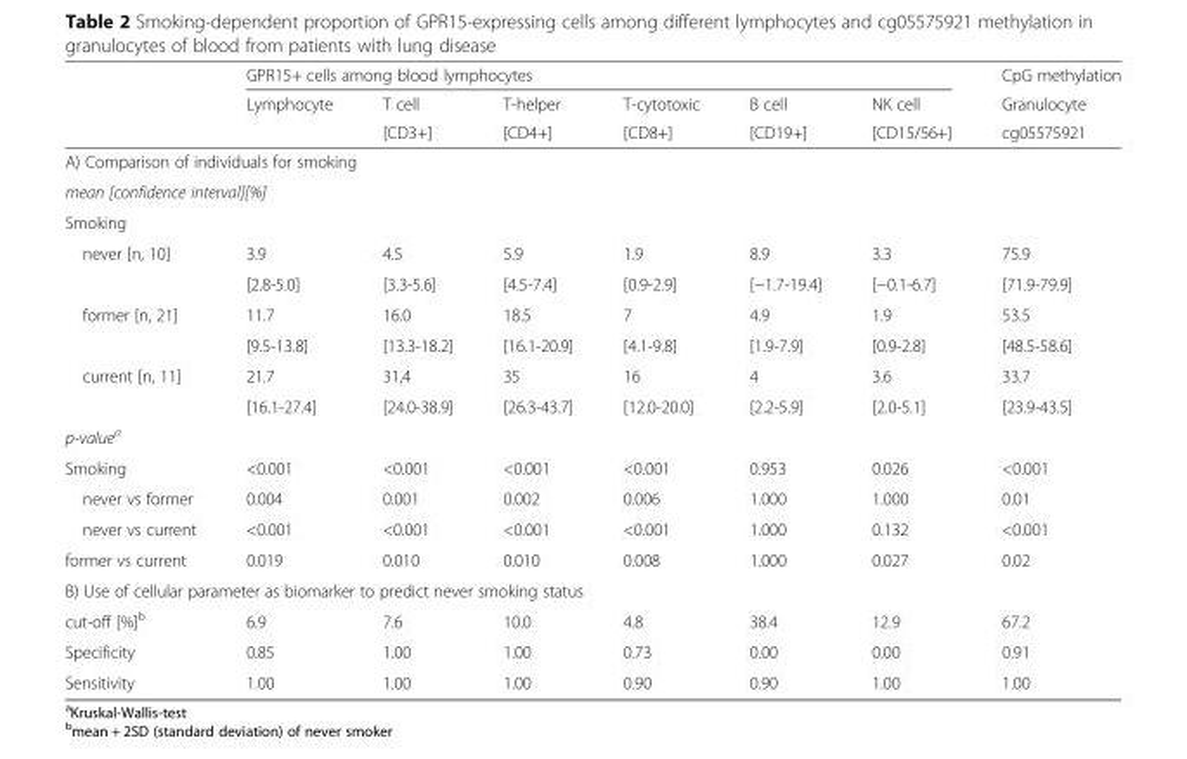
<table><thead><tr><td rowspan="3"></td><td colspan="6">GPR15+ cells among blood lymphocytes</td><td rowspan="3">CpG methylation Granulocyte cg05575921</td></tr><tr><td rowspan="2">Lymphocyte</td><td rowspan="2">T cell [CD3+]</td><td rowspan="2">T-helper [CD4+]</td><td rowspan="2">T-cytotoxic [CD8+]</td><td rowspan="2">B cell [CD19+]</td><td rowspan="2">NK cell [CD15/56+]</td></tr><tr></tr></thead><tbody><tr><td colspan="8">A) Comparison of individuals for smoking</td></tr><tr><td colspan="8">mean [confidence interval][%]</td></tr><tr><td colspan="8">Smoking</td></tr><tr><td rowspan="2">never [n, 10]</td><td>3.9</td><td>4.5</td><td>5.9</td><td>1.9</td><td>8.9</td><td>3.3</td><td>75.9</td></tr><tr><td>[2.8-5.0]</td><td>[3.3-5.6]</td><td>[4.5-7.4]</td><td>[0.9-2.9]</td><td>[−1.7-19.4]</td><td>[−0.1-6.7]</td><td>[71.9-79.9]</td></tr><tr><td rowspan="2">former [n, 21]</td><td>11.7</td><td>16.0</td><td>18.5</td><td>7</td><td>4.9</td><td>1.9</td><td>53.5</td></tr><tr><td>[9.5-13.8]</td><td>[13.3-18.2]</td><td>[16.1-20.9]</td><td>[4.1-9.8]</td><td>[1.9-7.9]</td><td>[0.9-2.8]</td><td>[48.5-58.6]</td></tr><tr><td rowspan="2">current [n, 11]</td><td>21.7</td><td>31,4</td><td>35</td><td>16</td><td>4</td><td>3.6</td><td>33.7</td></tr><tr><td>[16.1-27.4]</td><td>[24.0-38.9]</td><td>[26.3-43.7]</td><td>[12.0-20.0]</td><td>[2.2-5.9]</td><td>[2.0-5.1]</td><td>[23.9-43.5]</td></tr><tr><td colspan="8">p-value<sup>a</sup></td></tr><tr><td>Smoking</td><td>&lt;0.001</td><td>&lt;0.001</td><td>&lt;0.001</td><td>&lt;0.001</td><td>0.953</td><td>0.026</td><td>&lt;0.001</td></tr><tr><td>never vs former</td><td>0.004</td><td>0.001</td><td>0.002</td><td>0.006</td><td>1.000</td><td>1.000</td><td>0.01</td></tr><tr><td>never vs current</td><td>&lt;0.001</td><td>&lt;0.001</td><td>&lt;0.001</td><td>&lt;0.001</td><td>1.000</td><td>0.132</td><td>&lt;0.001</td></tr><tr><td>former vs current</td><td>0.019</td><td>0.010</td><td>0.010</td><td>0.008</td><td>1.000</td><td>0.027</td><td>0.02</td></tr><tr><td colspan="8">B) Use of cellular parameter as biomarker to predict never smoking status</td></tr><tr><td>cut-off [%]<sup>b</sup></td><td>6.9</td><td>7.6</td><td>10.0</td><td>4.8</td><td>38.4</td><td>12.9</td><td>67.2</td></tr><tr><td>Specificity</td><td>0.85</td><td>1.00</td><td>1.00</td><td>0.73</td><td>0.00</td><td>0.00</td><td>0.91</td></tr><tr><td>Sensitivity</td><td>1.00</td><td>1.00</td><td>1.00</td><td>0.90</td><td>0.90</td><td>1.00</td><td>1.00</td></tr></tbody></table>